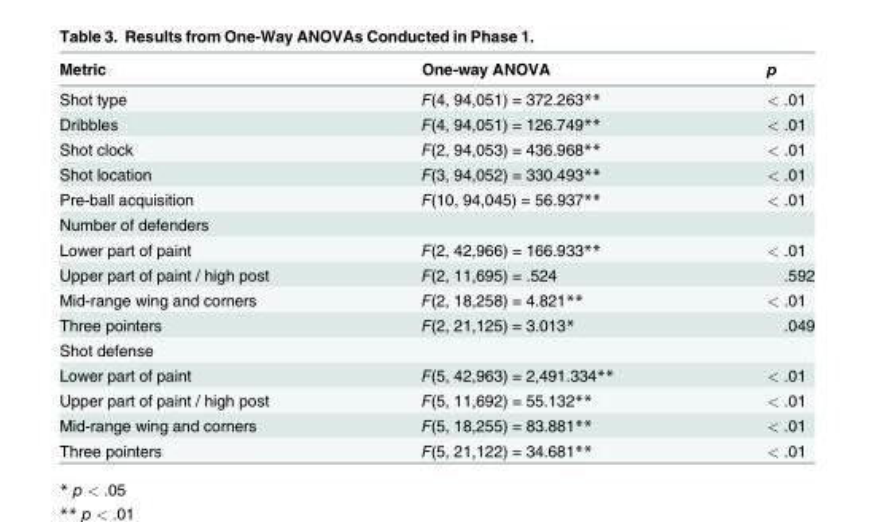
<table><thead><tr><td>Metric</td><td>One-way ANOVA</td><td>p</td></tr></thead><tbody><tr><td>Shot type</td><td>F(4, 94,051) = 372.263**</td><td>&lt; .01</td></tr><tr><td>Dribbles</td><td>F(4, 94,051) = 126.749**</td><td>&lt; .01</td></tr><tr><td>Shot clock</td><td>F(2, 94,053) = 436.968**</td><td>&lt; .01</td></tr><tr><td>Shot location</td><td>F(3, 94,052) = 330.493**</td><td>&lt; .01</td></tr><tr><td>Pre-ball acquisition</td><td>F(10, 94,045) = 56.937**</td><td>&lt; .01</td></tr><tr><td colspan="3">Number of defenders</td></tr><tr><td>Lower part of paint</td><td>F(2, 42,966) = 166.933**</td><td>&lt; .01</td></tr><tr><td>Upper part of paint / high post</td><td>F(2, 11,695) = .524</td><td>.592</td></tr><tr><td>Mid-range wing and corners</td><td>F(2, 18,258) = 4.821**</td><td>&lt; .01</td></tr><tr><td>Three pointers</td><td>F(2, 21,125) = 3.013*</td><td>.049</td></tr><tr><td colspan="3">Shot defense</td></tr><tr><td>Lower part of paint</td><td>F(5, 42,963) = 2,491.334**</td><td>&lt; .01</td></tr><tr><td>Upper part of paint / high post</td><td>F(5, 11,692) = 55.132**</td><td>&lt; .01</td></tr><tr><td>Mid-range wing and corners</td><td>F(5, 18,255) = 83.881**</td><td>&lt; .01</td></tr><tr><td>Three pointers</td><td>F(5, 21,122) = 34.681**</td><td>&lt; .01</td></tr></tbody></table>